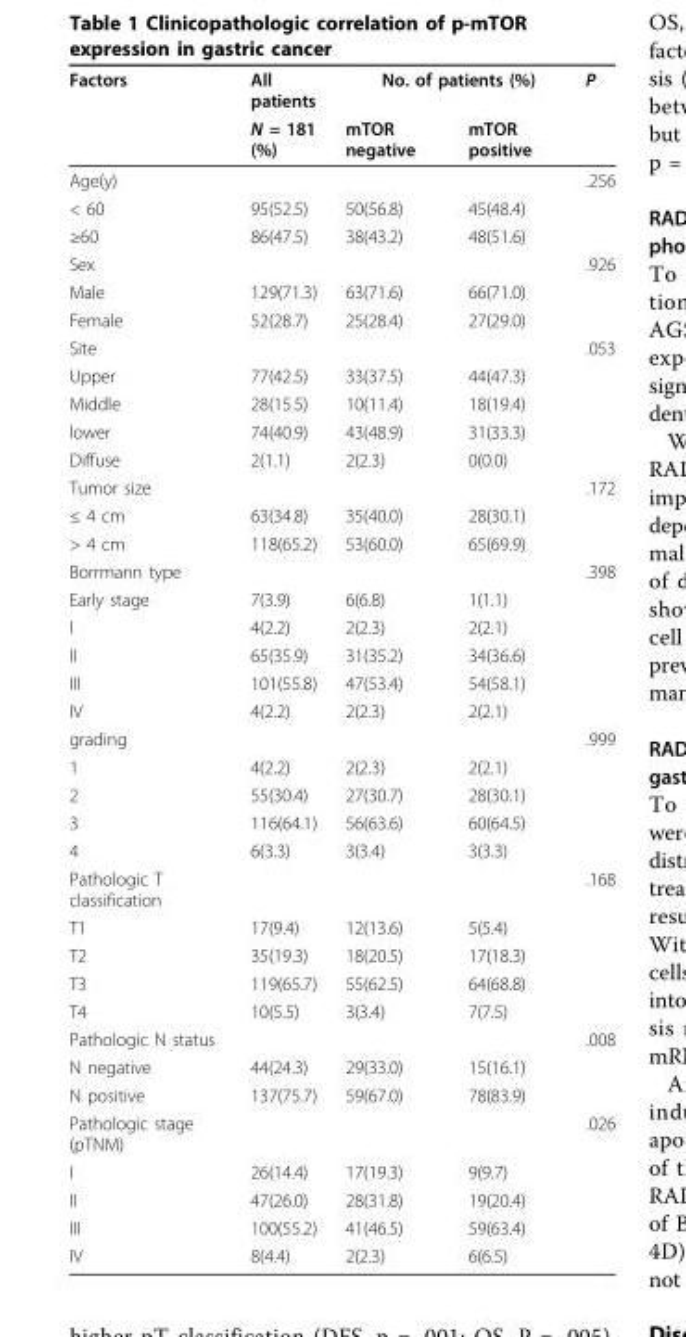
<table><thead><tr><td rowspan="2">Factors</td><td rowspan="2">All patients N = 181 (%)</td><td colspan="2">No. of patients (%)</td><td rowspan="2">P</td></tr><tr><td>mTOR negative</td><td>mTOR positive</td></tr></thead><tbody><tr><td>Age(y)</td><td></td><td></td><td></td><td>.256</td></tr><tr><td>&lt; 60</td><td>95(52.5)</td><td>50(56.8)</td><td>45(48.4)</td><td></td></tr><tr><td>≥60</td><td>86(47.5)</td><td>38(43.2)</td><td>48(51.6)</td><td></td></tr><tr><td>Sex</td><td></td><td></td><td></td><td>.926</td></tr><tr><td>Male</td><td>129(71.3)</td><td>63(71.6)</td><td>66(71.0)</td><td></td></tr><tr><td>Female</td><td>52(28.7)</td><td>25(28.4)</td><td>27(29.0)</td><td></td></tr><tr><td>Site</td><td></td><td></td><td></td><td>.053</td></tr><tr><td>Upper</td><td>77(42.5)</td><td>33(37.5)</td><td>44(47.3)</td><td></td></tr><tr><td>Middle</td><td>28(15.5)</td><td>10(11.4)</td><td>18(19.4)</td><td></td></tr><tr><td>lower</td><td>74(40.9)</td><td>43(48.9)</td><td>31(33.3)</td><td></td></tr><tr><td>Diffuse</td><td>2(1.1)</td><td>2(2.3)</td><td>0(0.0)</td><td></td></tr><tr><td>Tumor size</td><td></td><td></td><td></td><td>.172</td></tr><tr><td>≤ 4 cm</td><td>63(34.8)</td><td>35(40.0)</td><td>28(30.1)</td><td></td></tr><tr><td>&gt; 4 cm</td><td>118(65.2)</td><td>53(60.0)</td><td>65(69.9)</td><td></td></tr><tr><td>Borrmann type</td><td></td><td></td><td></td><td>.398</td></tr><tr><td>Early stage</td><td>7(3.9)</td><td>6(6.8)</td><td>1(1.1)</td><td></td></tr><tr><td>I</td><td>4(2.2)</td><td>2(2.3)</td><td>2(2.1)</td><td></td></tr><tr><td>II</td><td>65(35.9)</td><td>31(35.2)</td><td>34(36.6)</td><td></td></tr><tr><td>III</td><td>101(55.8)</td><td>47(53.4)</td><td>54(58.1)</td><td></td></tr><tr><td>IV</td><td>4(2.2)</td><td>2(2.3)</td><td>2(2.1)</td><td></td></tr><tr><td>grading</td><td></td><td></td><td></td><td>.999</td></tr><tr><td>1</td><td>4(2.2)</td><td>2(2.3)</td><td>2(2.1)</td><td></td></tr><tr><td>2</td><td>55(30.4)</td><td>27(30.7)</td><td>28(30.1)</td><td></td></tr><tr><td>3</td><td>116(64.1)</td><td>56(63.6)</td><td>60(64.5)</td><td></td></tr><tr><td>4</td><td>6(3.3)</td><td>3(3.4)</td><td>3(3.3)</td><td></td></tr><tr><td>Pathologic T classification</td><td></td><td></td><td></td><td>.168</td></tr><tr><td>T1</td><td>17(9.4)</td><td>12(13.6)</td><td>5(5.4)</td><td></td></tr><tr><td>T2</td><td>35(19.3)</td><td>18(20.5)</td><td>17(18.3)</td><td></td></tr><tr><td>T3</td><td>119(65.7)</td><td>55(62.5)</td><td>64(68.8)</td><td></td></tr><tr><td>T4</td><td>10(5.5)</td><td>3(3.4)</td><td>7(7.5)</td><td></td></tr><tr><td>Pathologic N status</td><td></td><td></td><td></td><td>.008</td></tr><tr><td>N negative</td><td>44(24.3)</td><td>29(33.0)</td><td>15(16.1)</td><td></td></tr><tr><td>N positive</td><td>137(75.7)</td><td>59(67.0)</td><td>78(83.9)</td><td></td></tr><tr><td>Pathologic stage (pTNM)</td><td></td><td></td><td></td><td>.026</td></tr><tr><td>I</td><td>26(14.4)</td><td>17(19.3)</td><td>9(9.7)</td><td></td></tr><tr><td>II</td><td>47(26.0)</td><td>28(31.8)</td><td>19(20.4)</td><td></td></tr><tr><td>III</td><td>100(55.2)</td><td>41(46.5)</td><td>59(63.4)</td><td></td></tr><tr><td>IV</td><td>8(4.4)</td><td>2(2.3)</td><td>6(6.5)</td><td></td></tr></tbody></table>